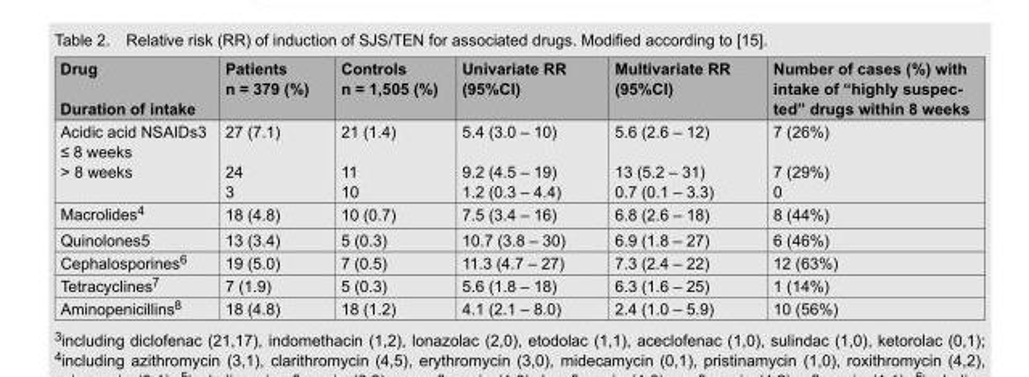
<table><thead><tr><td>Drug Duration of intake</td><td>Patients n = 379 (%)</td><td>Controls n = 1,505 (%)</td><td>Univariate RR (95%CI)</td><td>Multivariate RR (95%CI)</td><td>Number of cases (%) with intake of “highly suspec- ted” drugs within 8 weeks</td></tr></thead><tbody><tr><td>Acidic acid NSAIDs3 ≤ 8 weeks &gt; 8 weeks</td><td>27 (7.1) 24 3</td><td>21 (1.4) 11 10</td><td>5.4 (3.0 – 10) 9.2 (4.5 – 19) 1.2 (0.3 – 4.4)</td><td>5.6 (2.6 – 12) 13 (5.2 – 31) 0.7 (0.1 – 3.3)</td><td>7 (26%) 7 (29%) 0</td></tr><tr><td>Macrolides<sup>4</sup></td><td>18 (4.8)</td><td>10 (0.7)</td><td>7.5 (3.4 – 16)</td><td>6.8 (2.6 – 18)</td><td>8 (44%)</td></tr><tr><td>Quinolones5</td><td>13 (3.4)</td><td>5 (0.3)</td><td>10.7 (3.8 – 30)</td><td>6.9 (1.8 – 27)</td><td>6 (46%)</td></tr><tr><td>Cephalosporines<sup>6</sup></td><td>19 (5.0)</td><td>7 (0.5)</td><td>11.3 (4.7 – 27)</td><td>7.3 (2.4 – 22)</td><td>12 (63%)</td></tr><tr><td>Tetracyclines<sup>7</sup></td><td>7 (1.9)</td><td>5 (0.3)</td><td>5.6 (1.8 – 18)</td><td>6.3 (1.6 – 25)</td><td>1 (14%)</td></tr><tr><td>Aminopenicillins<sup>8</sup></td><td>18 (4.8)</td><td>18 (1.2)</td><td>4.1 (2.1 – 8.0)</td><td>2.4 (1.0 – 5.9)</td><td>10 (56%)</td></tr></tbody></table>